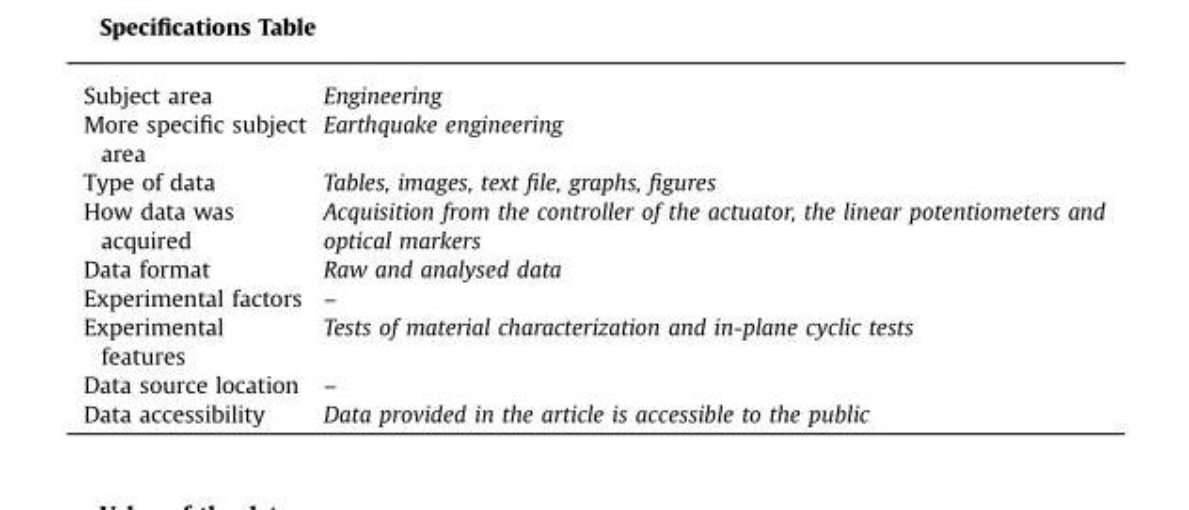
<table><tbody><tr><td>Subject area</td><td>Engineering</td></tr><tr><td>More specific subject area</td><td>Earthquake engineering</td></tr><tr><td>Type of data</td><td>Tables, images, text file, graphs, figures</td></tr><tr><td>How data was acquired</td><td>Acquisition from the controller of the actuator, the linear potentiometers and optical markers</td></tr><tr><td>Data format</td><td>Raw and analysed data</td></tr><tr><td>Experimental factors</td><td>–</td></tr><tr><td>Experimental features</td><td>Tests of material characterization and in-plane cyclic tests</td></tr><tr><td>Data source location</td><td>–</td></tr><tr><td>Data accessibility</td><td>Data provided in the article is accessible to the public</td></tr></tbody></table>